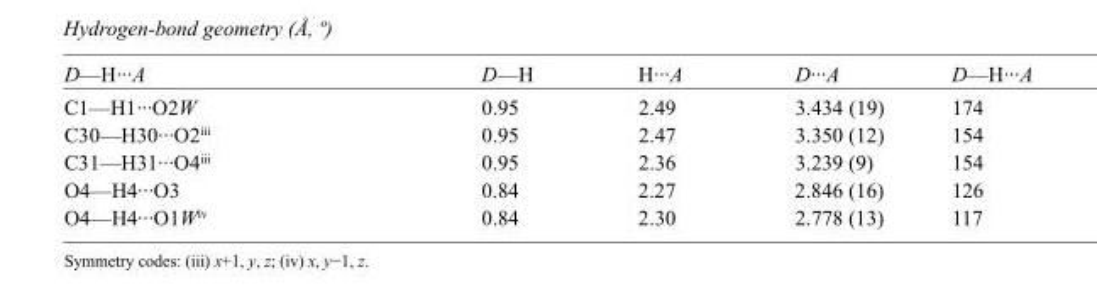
<table><tbody><tr><td>D—H···A</td><td>D—H</td><td>H···A</td><td>D···A</td><td>D—H···A</td></tr><tr><td>C1—H1···O2W</td><td>0.95</td><td>2.49</td><td>3.434 (19)</td><td>174</td></tr><tr><td>C30—H30···O2<sup>iii</sup></td><td>0.95</td><td>2.47</td><td>3.350 (12)</td><td>154</td></tr><tr><td>C31—H31···O4<sup>iii</sup></td><td>0.95</td><td>2.36</td><td>3.239 (9)</td><td>154</td></tr><tr><td>O4—H4···O3</td><td>0.84</td><td>2.27</td><td>2.846 (16)</td><td>126</td></tr><tr><td>O4—H4···O1W<sup>iv</sup></td><td>0.84</td><td>2.30</td><td>2.778 (13)</td><td>117</td></tr></tbody></table>